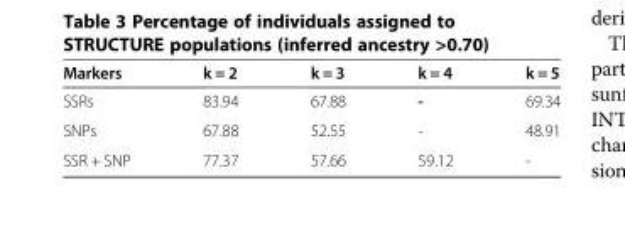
<table><thead><tr><td>Markers</td><td>k = 2</td><td>k = 3</td><td>k = 4</td><td>k = 5</td></tr></thead><tbody><tr><td>SSRs</td><td>83.94</td><td>67.88</td><td>-</td><td>69.34</td></tr><tr><td>SNPs</td><td>67.88</td><td>52.55</td><td>-</td><td>48.91</td></tr><tr><td>SSR + SNP</td><td>77.37</td><td>57.66</td><td>59.12</td><td>-</td></tr></tbody></table>